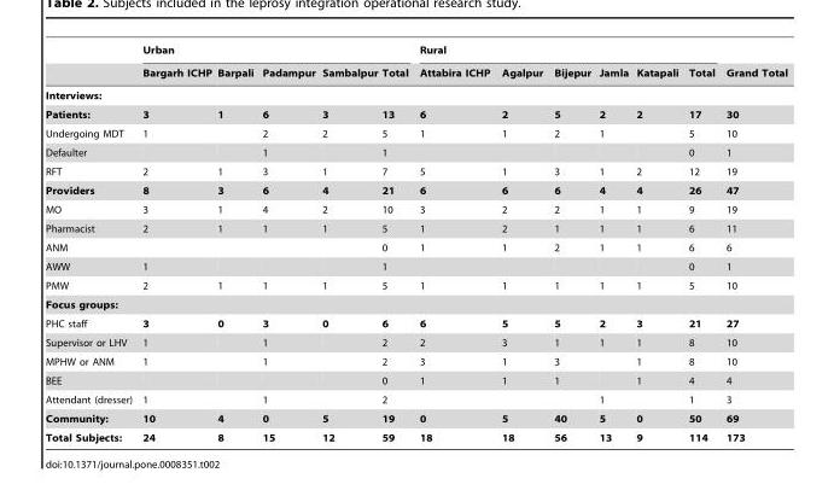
<table><thead><tr><td rowspan="2"></td><td colspan="5">Urban</td><td colspan="6">Rural</td><td rowspan="2">Grand Total</td></tr><tr><td>Bargarh ICHP</td><td>Barpali</td><td>Padampur</td><td>Sambalpur</td><td>Total</td><td>Attabira ICHP</td><td>Agalpur</td><td>Bijepur</td><td>Jamla</td><td>Katapali</td><td>Total</td></tr></thead><tbody><tr><td colspan="13">Interviews:</td></tr><tr><td>Patients:</td><td>3</td><td>1</td><td>6</td><td>3</td><td>13</td><td>6</td><td>2</td><td>5</td><td>2</td><td>2</td><td>17</td><td>30</td></tr><tr><td>Undergoing MDT</td><td>1</td><td></td><td>2</td><td>2</td><td>5</td><td>1</td><td>1</td><td>2</td><td>1</td><td></td><td>5</td><td>10</td></tr><tr><td>Defaulter</td><td></td><td></td><td>1</td><td></td><td>1</td><td></td><td></td><td></td><td></td><td></td><td>0</td><td>1</td></tr><tr><td>RFT</td><td>2</td><td>1</td><td>3</td><td>1</td><td>7</td><td>5</td><td>1</td><td>3</td><td>1</td><td>2</td><td>12</td><td>19</td></tr><tr><td>Providers</td><td>8</td><td>3</td><td>6</td><td>4</td><td>21</td><td>6</td><td>6</td><td>6</td><td>4</td><td>4</td><td>26</td><td>47</td></tr><tr><td>MO</td><td>3</td><td>1</td><td>4</td><td>2</td><td>10</td><td>3</td><td>2</td><td>2</td><td>1</td><td>1</td><td>9</td><td>19</td></tr><tr><td>Pharmacist</td><td>2</td><td>1</td><td>1</td><td>1</td><td>5</td><td>1</td><td>2</td><td>1</td><td>1</td><td>1</td><td>6</td><td>11</td></tr><tr><td>ANM</td><td></td><td></td><td></td><td></td><td>0</td><td>1</td><td>1</td><td>2</td><td>1</td><td>1</td><td>6</td><td>6</td></tr><tr><td>AWW</td><td>1</td><td></td><td></td><td></td><td>1</td><td></td><td></td><td></td><td></td><td></td><td>0</td><td>1</td></tr><tr><td>PMW</td><td>2</td><td>1</td><td>1</td><td>1</td><td>5</td><td>1</td><td>1</td><td>1</td><td>1</td><td>1</td><td>5</td><td>10</td></tr><tr><td colspan="13">Focus groups:</td></tr><tr><td>PHC staff</td><td>3</td><td>0</td><td>3</td><td>0</td><td>6</td><td>6</td><td>5</td><td>5</td><td>2</td><td>3</td><td>21</td><td>27</td></tr><tr><td>Supervisor or LHV</td><td>1</td><td></td><td>1</td><td></td><td>2</td><td>2</td><td>3</td><td>1</td><td>1</td><td>1</td><td>8</td><td>10</td></tr><tr><td>MPHW or ANM</td><td>1</td><td></td><td>1</td><td></td><td>2</td><td>3</td><td>1</td><td>3</td><td></td><td>1</td><td>8</td><td>10</td></tr><tr><td>BEE</td><td></td><td></td><td></td><td></td><td>0</td><td>1</td><td>1</td><td>1</td><td></td><td>1</td><td>4</td><td>4</td></tr><tr><td>Attendant (dresser)</td><td>1</td><td></td><td>1</td><td></td><td>2</td><td></td><td></td><td></td><td>1</td><td></td><td>1</td><td>3</td></tr><tr><td>Community:</td><td>10</td><td>4</td><td>0</td><td>5</td><td>19</td><td>0</td><td>5</td><td>40</td><td>5</td><td>0</td><td>50</td><td>69</td></tr><tr><td>Total Subjects:</td><td>24</td><td>8</td><td>15</td><td>12</td><td>59</td><td>18</td><td>18</td><td>56</td><td>13</td><td>9</td><td>114</td><td>173</td></tr></tbody></table>